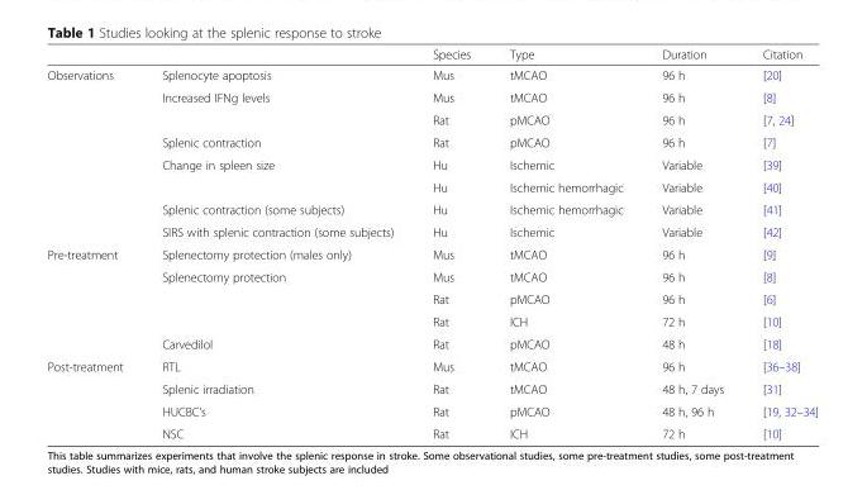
<table><thead><tr><td></td><td></td><td>Species</td><td>Type</td><td>Duration</td><td>Citation</td></tr></thead><tbody><tr><td rowspan="8">Observations</td><td>Splenocyte apoptosis</td><td>Mus</td><td>tMCAO</td><td>96 h</td><td>[20]</td></tr><tr><td rowspan="2">Increased IFNg levels</td><td>Mus</td><td>tMCAO</td><td>96 h</td><td>[8]</td></tr><tr><td>Rat</td><td>pMCAO</td><td>96 h</td><td>[7, 24]</td></tr><tr><td>Splenic contraction</td><td>Rat</td><td>pMCAO</td><td>96 h</td><td>[7]</td></tr><tr><td rowspan="2">Change in spleen size</td><td>Hu</td><td>Ischemic</td><td>Variable</td><td>[39]</td></tr><tr><td>Hu</td><td>Ischemic hemorrhagic</td><td>Variable</td><td>[40]</td></tr><tr><td>Splenic contraction (some subjects)</td><td>Hu</td><td>Ischemic hemorrhagic</td><td>Variable</td><td>[41]</td></tr><tr><td>SIRS with splenic contraction (some subjects)</td><td>Hu</td><td>Ischemic</td><td>Variable</td><td>[42]</td></tr><tr><td rowspan="5">Pre-treatment</td><td>Splenectomy protection (males only)</td><td>Mus</td><td>tMCAO</td><td>96 h</td><td>[9]</td></tr><tr><td rowspan="3">Splenectomy protection</td><td>Mus</td><td>tMCAO</td><td>96 h</td><td>[8]</td></tr><tr><td>Rat</td><td>pMCAO</td><td>96 h</td><td>[6]</td></tr><tr><td>Rat</td><td>ICH</td><td>72 h</td><td>[10]</td></tr><tr><td>Carvedilol</td><td>Rat</td><td>pMCAO</td><td>48 h</td><td>[18]</td></tr><tr><td rowspan="4">Post-treatment</td><td>RTL</td><td>Mus</td><td>tMCAO</td><td>96 h</td><td>[36–38]</td></tr><tr><td>Splenic irradiation</td><td>Rat</td><td>tMCAO</td><td>48 h, 7 days</td><td>[31]</td></tr><tr><td>HUCBC’s</td><td>Rat</td><td>pMCAO</td><td>48 h, 96 h</td><td>[19, 32–34]</td></tr><tr><td>NSC</td><td>Rat</td><td>ICH</td><td>72 h</td><td>[10]</td></tr></tbody></table>